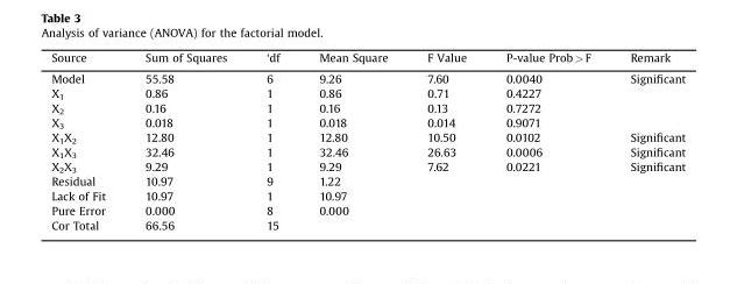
<table><thead><tr><td>Source</td><td>Sum of Squares</td><td>‘df</td><td>Mean Square</td><td>F Value</td><td>P-value Prob &gt; F</td><td>Remark</td></tr></thead><tbody><tr><td>Model</td><td>55.58</td><td>6</td><td>9.26</td><td>7.60</td><td>0.0040</td><td>Significant</td></tr><tr><td>X<sub>1</sub></td><td>0.86</td><td>1</td><td>0.86</td><td>0.71</td><td>0.4227</td><td></td></tr><tr><td>X<sub>2</sub></td><td>0.16</td><td>1</td><td>0.16</td><td>0.13</td><td>0.7272</td><td></td></tr><tr><td>X<sub>3</sub></td><td>0.018</td><td>1</td><td>0.018</td><td>0.014</td><td>0.9071</td><td></td></tr><tr><td>X<sub>1</sub>X<sub>2</sub></td><td>12.80</td><td>1</td><td>12.80</td><td>10.50</td><td>0.0102</td><td>Significant</td></tr><tr><td>X<sub>1</sub>X<sub>3</sub></td><td>32.46</td><td>1</td><td>32.46</td><td>26.63</td><td>0.0006</td><td>Significant</td></tr><tr><td>X<sub>2</sub>X<sub>3</sub></td><td>9.29</td><td>1</td><td>9.29</td><td>7.62</td><td>0.0221</td><td>Significant</td></tr><tr><td>Residual</td><td>10.97</td><td>9</td><td>1.22</td><td></td><td></td><td></td></tr><tr><td>Lack of Fit</td><td>10.97</td><td>1</td><td>10.97</td><td></td><td></td><td></td></tr><tr><td>Pure Error</td><td>0.000</td><td>8</td><td>0.000</td><td></td><td></td><td></td></tr><tr><td>Cor Total</td><td>66.56</td><td>15</td><td></td><td></td><td></td><td></td></tr></tbody></table>